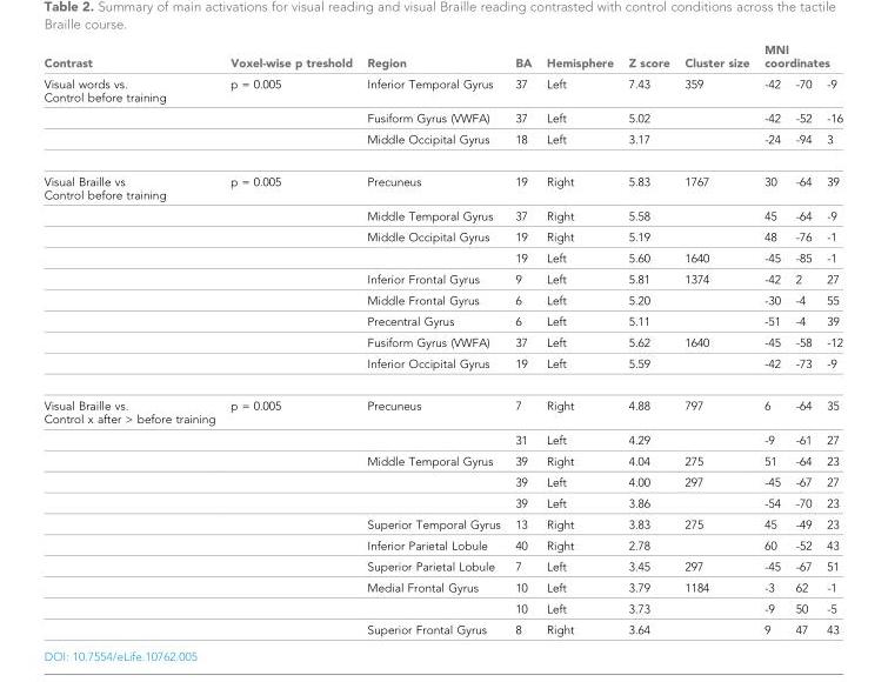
<table><thead><tr><td rowspan="2">Contrast Visual words vs. Control before training</td><td rowspan="2">Voxel-wise p treshold p = 0.005</td><td rowspan="2">Region Inferior Temporal Gyrus</td><td rowspan="2">BA 37</td><td rowspan="2">Hemisphere Left</td><td rowspan="2">Z score 7.43</td><td rowspan="2">Cluster size 359</td><td colspan="3">MNI coordinates</td></tr><tr><td>-42</td><td>-70</td><td>-9</td></tr></thead><tbody><tr><td></td><td></td><td>Fusiform Gyrus (VWFA)</td><td>37</td><td>Left</td><td>5.02</td><td></td><td>-42</td><td>-52</td><td>-16</td></tr><tr><td></td><td></td><td>Middle Occipital Gyrus</td><td>18</td><td>Left</td><td>3.17</td><td></td><td>-24</td><td>-94</td><td>3</td></tr><tr><td rowspan="9">Visual Braille vs Control before training</td><td>p = 0.005</td><td>Precuneus</td><td>19</td><td>Right</td><td>5.83</td><td>1767</td><td>30</td><td>-64</td><td>39</td></tr><tr><td></td><td>Middle Temporal Gyrus</td><td>37</td><td>Right</td><td>5.58</td><td></td><td>45</td><td>-64</td><td>-9</td></tr><tr><td></td><td>Middle Occipital Gyrus</td><td>19</td><td>Right</td><td>5.19</td><td></td><td>48</td><td>-76</td><td>-1</td></tr><tr><td></td><td></td><td>19</td><td>Left</td><td>5.60</td><td>1640</td><td>-45</td><td>-85</td><td>-1</td></tr><tr><td></td><td>Inferior Frontal Gyrus</td><td>9</td><td>Left</td><td>5.81</td><td>1374</td><td>-42</td><td>2</td><td>27</td></tr><tr><td></td><td>Middle Frontal Gyrus</td><td>6</td><td>Left</td><td>5.20</td><td></td><td>-30</td><td>-4</td><td>55</td></tr><tr><td></td><td>Precentral Gyrus</td><td>6</td><td>Left</td><td>5.11</td><td></td><td>-51</td><td>-4</td><td>39</td></tr><tr><td></td><td>Fusiform Gyrus (VWFA)</td><td>37</td><td>Left</td><td>5.62</td><td>1640</td><td>-45</td><td>-58</td><td>-12</td></tr><tr><td></td><td>Inferior Occipital Gyrus</td><td>19</td><td>Left</td><td>5.59</td><td></td><td>-42</td><td>-73</td><td>-9</td></tr><tr><td rowspan="11">Visual Braille vs. Control x after &gt; before training</td><td>p = 0.005</td><td>Precuneus</td><td>7</td><td>Right</td><td>4.88</td><td>797</td><td>6</td><td>-64</td><td>35</td></tr><tr><td></td><td></td><td>31</td><td>Left</td><td>4.29</td><td></td><td>-9</td><td>-61</td><td>27</td></tr><tr><td></td><td>Middle Temporal Gyrus</td><td>39</td><td>Right</td><td>4.04</td><td>275</td><td>51</td><td>-64</td><td>23</td></tr><tr><td></td><td></td><td>39</td><td>Left</td><td>4.00</td><td>297</td><td>-45</td><td>-67</td><td>27</td></tr><tr><td></td><td></td><td>39</td><td>Left</td><td>3.86</td><td></td><td>-54</td><td>-70</td><td>23</td></tr><tr><td></td><td>Superior Temporal Gyrus</td><td>13</td><td>Right</td><td>3.83</td><td>275</td><td>45</td><td>-49</td><td>23</td></tr><tr><td></td><td>Inferior Parietal Lobule</td><td>40</td><td>Right</td><td>2.78</td><td></td><td>60</td><td>-52</td><td>43</td></tr><tr><td></td><td>Superior Parietal Lobule</td><td>7</td><td>Left</td><td>3.45</td><td>297</td><td>-45</td><td>-67</td><td>51</td></tr><tr><td></td><td>Medial Frontal Gyrus</td><td>10</td><td>Left</td><td>3.79</td><td>1184</td><td>-3</td><td>62</td><td>-1</td></tr><tr><td></td><td></td><td>10</td><td>Left</td><td>3.73</td><td></td><td>-9</td><td>50</td><td>-5</td></tr><tr><td></td><td>Superior Frontal Gyrus</td><td>8</td><td>Right</td><td>3.64</td><td></td><td>9</td><td>47</td><td>43</td></tr></tbody></table>